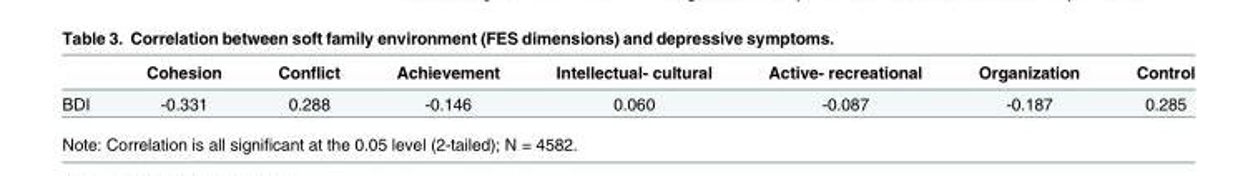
<table><thead><tr><td></td><td>Cohesion</td><td>Conflict</td><td>Achievement</td><td>Intellectual- cultural</td><td>Active- recreational</td><td>Organization</td><td>Control</td></tr></thead><tbody><tr><td>BDI</td><td>-0.331</td><td>0.288</td><td>-0.146</td><td>0.060</td><td>-0.087</td><td>-0.187</td><td>0.285</td></tr></tbody></table>